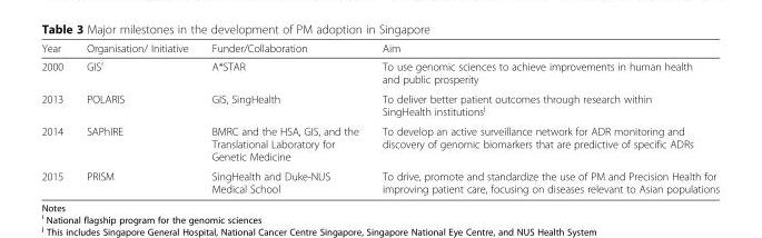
<table><thead><tr><td>Year</td><td>Organisation/ Initiative</td><td>Funder/Collaboration</td><td>Aim</td></tr></thead><tbody><tr><td>2000</td><td>GIS<sup>i</sup></td><td>A*STAR</td><td>To use genomic sciences to achieve improvements in human health and public prosperity</td></tr><tr><td>2013</td><td>POLARIS</td><td>GIS, SingHealth</td><td>To deliver better patient outcomes through research within SingHealth institutions<sup>j</sup></td></tr><tr><td>2014</td><td>SAPhIRE</td><td>BMRC and the HSA, GIS, and the Translational Laboratory for Genetic Medicine</td><td>To develop an active surveillance network for ADR monitoring and discovery of genomic biomarkers that are predictive of specific ADRs</td></tr><tr><td>2015</td><td>PRISM</td><td>SingHealth and Duke-NUS Medical School</td><td>To drive, promote and standardize the use of PM and Precision Health for improving patient care, focusing on diseases relevant to Asian populations</td></tr></tbody></table>